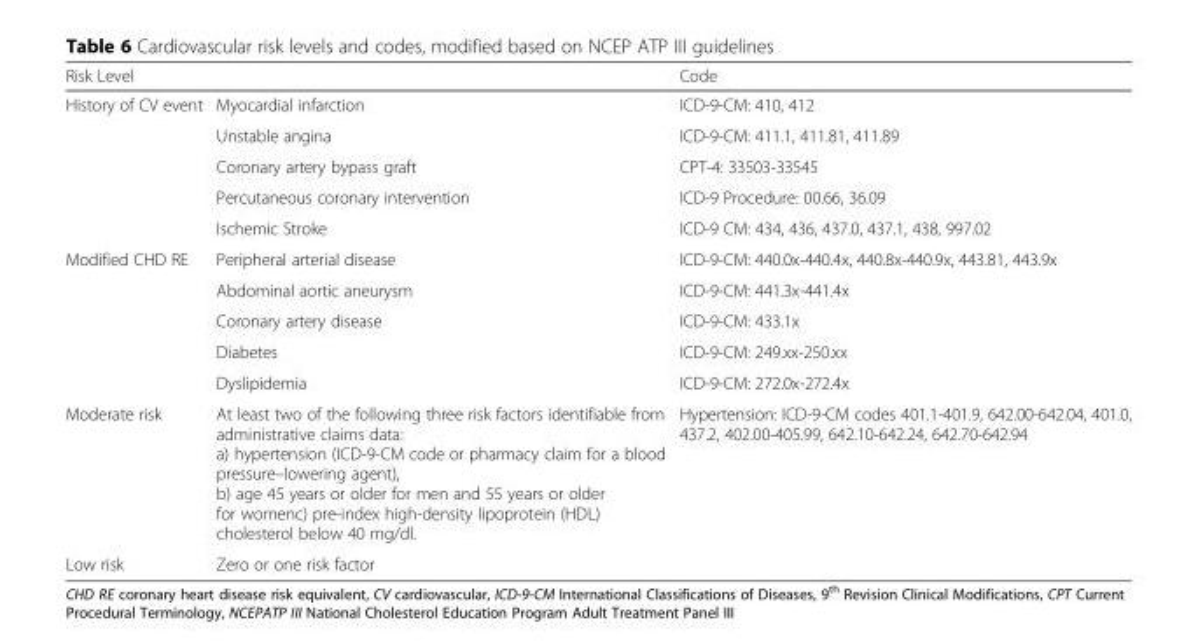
<table><thead><tr><td>Risk Level</td><td></td><td>Code</td></tr></thead><tbody><tr><td rowspan="5">History of CV event</td><td>Myocardial infarction</td><td>ICD-9-CM: 410, 412</td></tr><tr><td>Unstable angina</td><td>ICD-9-CM: 411.1, 411.81, 411.89</td></tr><tr><td>Coronary artery bypass graft</td><td>CPT-4: 33503-33545</td></tr><tr><td>Percutaneous coronary intervention</td><td>ICD-9 Procedure: 00.66, 36.09</td></tr><tr><td>Ischemic Stroke</td><td>ICD-9 CM: 434, 436, 437.0, 437.1, 438, 997.02</td></tr><tr><td rowspan="5">Modified CHD RE</td><td>Peripheral arterial disease</td><td>ICD-9-CM: 440.0x-440.4x, 440.8x-440.9x, 443.81, 443.9x</td></tr><tr><td>Abdominal aortic aneurysm</td><td>ICD-9-CM: 441.3x-441.4x</td></tr><tr><td>Coronary artery disease</td><td>ICD-9-CM: 433.1x</td></tr><tr><td>Diabetes</td><td>ICD-9-CM: 249.xx-250.xx</td></tr><tr><td>Dyslipidemia</td><td>ICD-9-CM: 272.0x-272.4x</td></tr><tr><td>Moderate risk</td><td>At least two of the following three risk factors identifiable from administrative claims data: a) hypertension (ICD-9-CM code or pharmacy claim for a blood pressure–lowering agent), b) age 45 years or older for men and 55 years or older for womenc) pre-index high-density lipoprotein (HDL) cholesterol below 40 mg/dl.</td><td rowspan="2">Hypertension: ICD-9-CM codes 401.1-401.9, 642.00-642.04, 401.0, 437.2, 402.00-405.99, 642.10-642.24, 642.70-642.94</td></tr><tr><td>Low risk</td><td>Zero or one risk factor</td></tr></tbody></table>